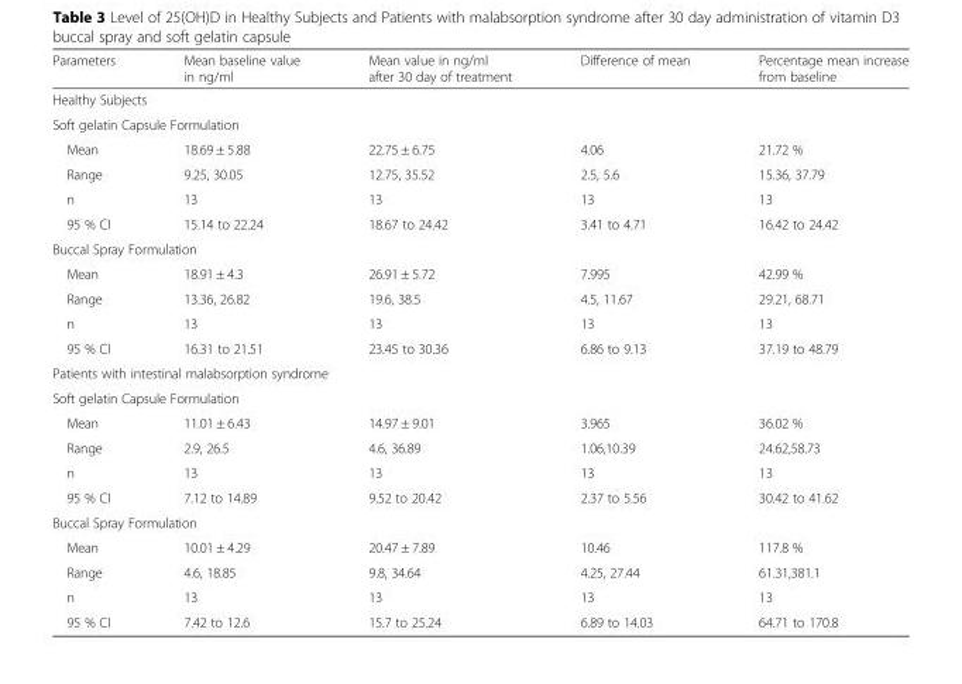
<table><thead><tr><td>Parameters</td><td>Mean baseline value in ng/ml</td><td>Mean value in ng/ml after 30 day of treatment</td><td>Difference of mean</td><td>Percentage mean increase from baseline</td></tr></thead><tbody><tr><td colspan="5">Healthy Subjects</td></tr><tr><td colspan="5">Soft gelatin Capsule Formulation</td></tr><tr><td>Mean</td><td>18.69 ± 5.88</td><td>22.75 ± 6.75</td><td>4.06</td><td>21.72 %</td></tr><tr><td>Range</td><td>9.25, 30.05</td><td>12.75, 35.52</td><td>2.5, 5.6</td><td>15.36, 37.79</td></tr><tr><td>n</td><td>13</td><td>13</td><td>13</td><td>13</td></tr><tr><td>95 % CI</td><td>15.14 to 22.24</td><td>18.67 to 24.42</td><td>3.41 to 4.71</td><td>16.42 to 24.42</td></tr><tr><td colspan="5">Buccal Spray Formulation</td></tr><tr><td>Mean</td><td>18.91 ± 4.3</td><td>26.91 ± 5.72</td><td>7.995</td><td>42.99 %</td></tr><tr><td>Range</td><td>13.36, 26.82</td><td>19.6, 38.5</td><td>4.5, 11.67</td><td>29.21, 68.71</td></tr><tr><td>n</td><td>13</td><td>13</td><td>13</td><td>13</td></tr><tr><td>95 % CI</td><td>16.31 to 21.51</td><td>23.45 to 30.36</td><td>6.86 to 9.13</td><td>37.19 to 48.79</td></tr><tr><td colspan="5">Patients with intestinal malabsorption syndrome</td></tr><tr><td colspan="5">Soft gelatin Capsule Formulation</td></tr><tr><td>Mean</td><td>11.01 ± 6.43</td><td>14.97 ± 9.01</td><td>3.965</td><td>36.02 %</td></tr><tr><td>Range</td><td>2.9, 26.5</td><td>4.6, 36.89</td><td>1.06,10.39</td><td>24.62,58.73</td></tr><tr><td>n</td><td>13</td><td>13</td><td>13</td><td>13</td></tr><tr><td>95 % CI</td><td>7.12 to 14.89</td><td>9.52 to 20.42</td><td>2.37 to 5.56</td><td>30.42 to 41.62</td></tr><tr><td colspan="5">Buccal Spray Formulation</td></tr><tr><td>Mean</td><td>10.01 ± 4.29</td><td>20.47 ± 7.89</td><td>10.46</td><td>117.8 %</td></tr><tr><td>Range</td><td>4.6, 18.85</td><td>9.8, 34.64</td><td>4.25, 27.44</td><td>61.31,381.1</td></tr><tr><td>n</td><td>13</td><td>13</td><td>13</td><td>13</td></tr><tr><td>95 % CI</td><td>7.42 to 12.6</td><td>15.7 to 25.24</td><td>6.89 to 14.03</td><td>64.71 to 170.8</td></tr></tbody></table>